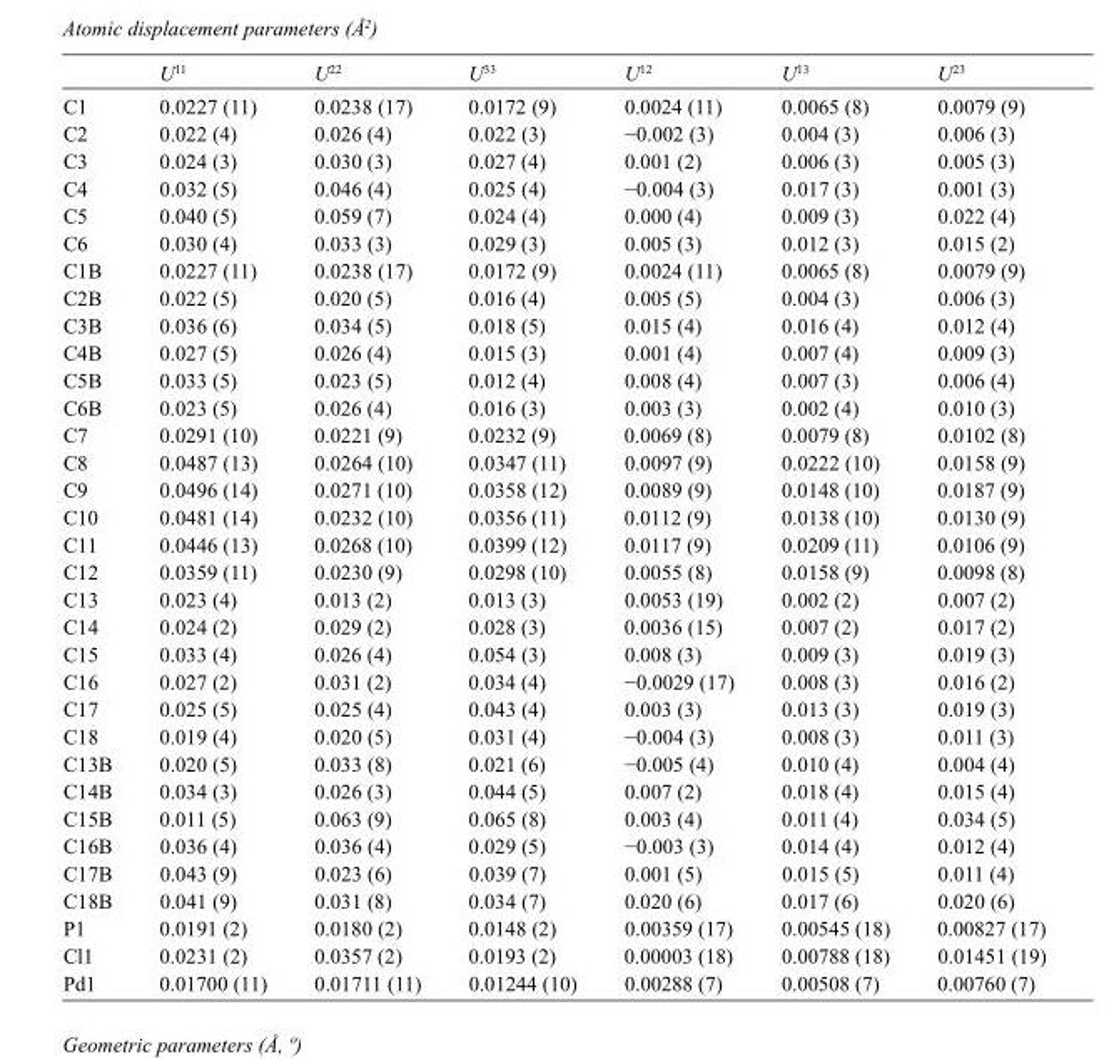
<table><thead><tr><td></td><td>U<sup>11</sup></td><td>U<sup>22</sup></td><td>U<sup>33</sup></td><td>U<sup>12</sup></td><td>U<sup>13</sup></td><td>U<sup>23</sup></td></tr></thead><tbody><tr><td>C1</td><td>0.0227 (11)</td><td>0.0238 (17)</td><td>0.0172 (9)</td><td>0.0024 (11)</td><td>0.0065 (8)</td><td>0.0079 (9)</td></tr><tr><td>C2</td><td>0.022 (4)</td><td>0.026 (4)</td><td>0.022 (3)</td><td>−0.002 (3)</td><td>0.004 (3)</td><td>0.006 (3)</td></tr><tr><td>C3</td><td>0.024 (3)</td><td>0.030 (3)</td><td>0.027 (4)</td><td>0.001 (2)</td><td>0.006 (3)</td><td>0.005 (3)</td></tr><tr><td>C4</td><td>0.032 (5)</td><td>0.046 (4)</td><td>0.025 (4)</td><td>−0.004 (3)</td><td>0.017 (3)</td><td>0.001 (3)</td></tr><tr><td>C5</td><td>0.040 (5)</td><td>0.059 (7)</td><td>0.024 (4)</td><td>0.000 (4)</td><td>0.009 (3)</td><td>0.022 (4)</td></tr><tr><td>C6</td><td>0.030 (4)</td><td>0.033 (3)</td><td>0.029 (3)</td><td>0.005 (3)</td><td>0.012 (3)</td><td>0.015 (2)</td></tr><tr><td>C1B</td><td>0.0227 (11)</td><td>0.0238 (17)</td><td>0.0172 (9)</td><td>0.0024 (11)</td><td>0.0065 (8)</td><td>0.0079 (9)</td></tr><tr><td>C2B</td><td>0.022 (5)</td><td>0.020 (5)</td><td>0.016 (4)</td><td>0.005 (5)</td><td>0.004 (3)</td><td>0.006 (3)</td></tr><tr><td>C3B</td><td>0.036 (6)</td><td>0.034 (5)</td><td>0.018 (5)</td><td>0.015 (4)</td><td>0.016 (4)</td><td>0.012 (4)</td></tr><tr><td>C4B</td><td>0.027 (5)</td><td>0.026 (4)</td><td>0.015 (3)</td><td>0.001 (4)</td><td>0.007 (4)</td><td>0.009 (3)</td></tr><tr><td>C5B</td><td>0.033 (5)</td><td>0.023 (5)</td><td>0.012 (4)</td><td>0.008 (4)</td><td>0.007 (3)</td><td>0.006 (4)</td></tr><tr><td>C6B</td><td>0.023 (5)</td><td>0.026 (4)</td><td>0.016 (3)</td><td>0.003 (3)</td><td>0.002 (4)</td><td>0.010 (3)</td></tr><tr><td>C7</td><td>0.0291 (10)</td><td>0.0221 (9)</td><td>0.0232 (9)</td><td>0.0069 (8)</td><td>0.0079 (8)</td><td>0.0102 (8)</td></tr><tr><td>C8</td><td>0.0487 (13)</td><td>0.0264 (10)</td><td>0.0347 (11)</td><td>0.0097 (9)</td><td>0.0222 (10)</td><td>0.0158 (9)</td></tr><tr><td>C9</td><td>0.0496 (14)</td><td>0.0271 (10)</td><td>0.0358 (12)</td><td>0.0089 (9)</td><td>0.0148 (10)</td><td>0.0187 (9)</td></tr><tr><td>C10</td><td>0.0481 (14)</td><td>0.0232 (10)</td><td>0.0356 (11)</td><td>0.0112 (9)</td><td>0.0138 (10)</td><td>0.0130 (9)</td></tr><tr><td>C11</td><td>0.0446 (13)</td><td>0.0268 (10)</td><td>0.0399 (12)</td><td>0.0117 (9)</td><td>0.0209 (11)</td><td>0.0106 (9)</td></tr><tr><td>C12</td><td>0.0359 (11)</td><td>0.0230 (9)</td><td>0.0298 (10)</td><td>0.0055 (8)</td><td>0.0158 (9)</td><td>0.0098 (8)</td></tr><tr><td>C13</td><td>0.023 (4)</td><td>0.013 (2)</td><td>0.013 (3)</td><td>0.0053 (19)</td><td>0.002 (2)</td><td>0.007 (2)</td></tr><tr><td>C14</td><td>0.024 (2)</td><td>0.029 (2)</td><td>0.028 (3)</td><td>0.0036 (15)</td><td>0.007 (2)</td><td>0.017 (2)</td></tr><tr><td>C15</td><td>0.033 (4)</td><td>0.026 (4)</td><td>0.054 (3)</td><td>0.008 (3)</td><td>0.009 (3)</td><td>0.019 (3)</td></tr><tr><td>C16</td><td>0.027 (2)</td><td>0.031 (2)</td><td>0.034 (4)</td><td>−0.0029 (17)</td><td>0.008 (3)</td><td>0.016 (2)</td></tr><tr><td>C17</td><td>0.025 (5)</td><td>0.025 (4)</td><td>0.043 (4)</td><td>0.003 (3)</td><td>0.013 (3)</td><td>0.019 (3)</td></tr><tr><td>C18</td><td>0.019 (4)</td><td>0.020 (5)</td><td>0.031 (4)</td><td>−0.004 (3)</td><td>0.008 (3)</td><td>0.011 (3)</td></tr><tr><td>C13B</td><td>0.020 (5)</td><td>0.033 (8)</td><td>0.021 (6)</td><td>−0.005 (4)</td><td>0.010 (4)</td><td>0.004 (4)</td></tr><tr><td>C14B</td><td>0.034 (3)</td><td>0.026 (3)</td><td>0.044 (5)</td><td>0.007 (2)</td><td>0.018 (4)</td><td>0.015 (4)</td></tr><tr><td>C15B</td><td>0.011 (5)</td><td>0.063 (9)</td><td>0.065 (8)</td><td>0.003 (4)</td><td>0.011 (4)</td><td>0.034 (5)</td></tr><tr><td>C16B</td><td>0.036 (4)</td><td>0.036 (4)</td><td>0.029 (5)</td><td>−0.003 (3)</td><td>0.014 (4)</td><td>0.012 (4)</td></tr><tr><td>C17B</td><td>0.043 (9)</td><td>0.023 (6)</td><td>0.039 (7)</td><td>0.001 (5)</td><td>0.015 (5)</td><td>0.011 (4)</td></tr><tr><td>C18B</td><td>0.041 (9)</td><td>0.031 (8)</td><td>0.034 (7)</td><td>0.020 (6)</td><td>0.017 (6)</td><td>0.020 (6)</td></tr><tr><td>P1</td><td>0.0191 (2)</td><td>0.0180 (2)</td><td>0.0148 (2)</td><td>0.00359 (17)</td><td>0.00545 (18)</td><td>0.00827 (17)</td></tr><tr><td>Cl1</td><td>0.0231 (2)</td><td>0.0357 (2)</td><td>0.0193 (2)</td><td>0.00003 (18)</td><td>0.00788 (18)</td><td>0.01451 (19)</td></tr><tr><td>Pd1</td><td>0.01700 (11)</td><td>0.01711 (11)</td><td>0.01244 (10)</td><td>0.00288 (7)</td><td>0.00508 (7)</td><td>0.00760 (7)</td></tr></tbody></table>